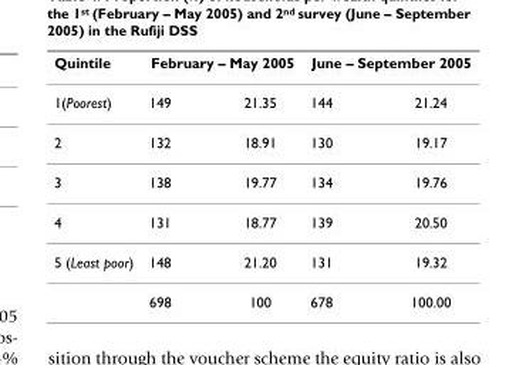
<table><thead><tr><td rowspan="2">Quintile 1(Poorest)</td><td colspan="2">February – May 2005</td><td colspan="2">June – September 2005</td></tr><tr><td>149</td><td>21.35</td><td>144</td><td>21.24</td></tr></thead><tbody><tr><td>2</td><td>132</td><td>18.91</td><td>130</td><td>19.17</td></tr><tr><td>3</td><td>138</td><td>19.77</td><td>134</td><td>19.76</td></tr><tr><td>4</td><td>131</td><td>18.77</td><td>139</td><td>20.50</td></tr><tr><td rowspan="2">5 (Least poor)</td><td>148</td><td>21.20</td><td>131</td><td>19.32</td></tr><tr><td>698</td><td>100</td><td>678</td><td>100.00</td></tr></tbody></table>